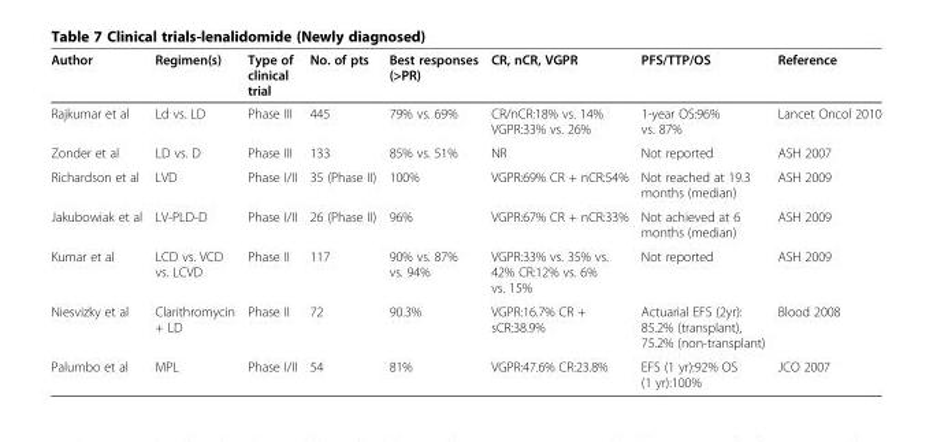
<table><thead><tr><td>Author</td><td>Regimen(s)</td><td>Type of clinical trial</td><td>No. of pts</td><td>Best responses (&gt;PR)</td><td>CR, nCR, VGPR</td><td>PFS/TTP/OS</td><td>Reference</td></tr></thead><tbody><tr><td>Rajkumar et al</td><td>Ld vs. LD</td><td>Phase III</td><td>445</td><td>79% vs. 69%</td><td>CR/nCR:18% vs. 14% VGPR:33% vs. 26%</td><td>1-year OS:96% vs. 87%</td><td>Lancet Oncol 2010</td></tr><tr><td>Zonder et al</td><td>LD vs. D</td><td>Phase III</td><td>133</td><td>85% vs. 51%</td><td>NR</td><td>Not reported</td><td>ASH 2007</td></tr><tr><td>Richardson et al</td><td>LVD</td><td>Phase I/II</td><td>35 (Phase II)</td><td>100%</td><td>VGPR:69% CR + nCR:54%</td><td>Not reached at 19.3 months (median)</td><td>ASH 2009</td></tr><tr><td>Jakubowiak et al</td><td>LV-PLD-D</td><td>Phase I/II</td><td>26 (Phase II)</td><td>96%</td><td>VGPR:67% CR + nCR:33%</td><td>Not achieved at 6 months (median)</td><td>ASH 2009</td></tr><tr><td>Kumar et al</td><td>LCD vs. VCD vs. LCVD</td><td>Phase II</td><td>117</td><td>90% vs. 87% vs. 94%</td><td>VGPR:33% vs. 35% vs. 42% CR:12% vs. 6% vs. 15%</td><td>Not reported</td><td>ASH 2009</td></tr><tr><td>Niesvizky et al</td><td>Clarithromycin + LD</td><td>Phase II</td><td>72</td><td>90.3%</td><td>VGPR:16.7% CR + sCR:38.9%</td><td>Actuarial EFS (2yr): 85.2% (transplant), 75.2% (non-transplant)</td><td>Blood 2008</td></tr><tr><td>Palumbo et al</td><td>MPL</td><td>Phase I/II</td><td>54</td><td>81%</td><td>VGPR:47.6% CR:23.8%</td><td>EFS (1 yr):92% OS (1 yr):100%</td><td>JCO 2007</td></tr></tbody></table>